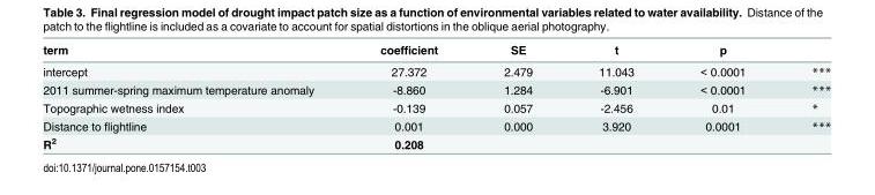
<table><thead><tr><td>term</td><td>coefficient</td><td>SE</td><td>t</td><td>p</td><td></td></tr></thead><tbody><tr><td>intercept</td><td>27.372</td><td>2.479</td><td>11.043</td><td>&lt; 0.0001</td><td>***</td></tr><tr><td>2011 summer-spring maximum temperature anomaly</td><td>-8.860</td><td>1.284</td><td>-6.901</td><td>&lt; 0.0001</td><td>***</td></tr><tr><td>Topographic wetness index</td><td>-0.139</td><td>0.057</td><td>-2.456</td><td>0.01</td><td>*</td></tr><tr><td>Distance to flightline</td><td>0.001</td><td>0.000</td><td>3.920</td><td>0.0001</td><td>***</td></tr><tr><td>R<sup>2</sup></td><td>0.208</td><td></td><td></td><td></td><td></td></tr></tbody></table>